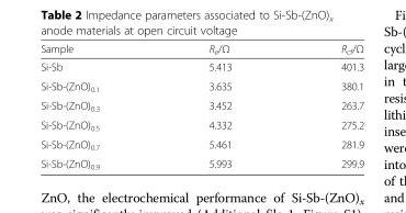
<table><thead><tr><td>Sample</td><td>R<sub>e</sub>/Ω</td><td>R<sub>cf</sub>/Ω</td></tr></thead><tbody><tr><td>Si-Sb</td><td>5.413</td><td>401.3</td></tr><tr><td>Si-Sb-(ZnO)<sub>0.1</sub></td><td>3.635</td><td>380.1</td></tr><tr><td>Si-Sb-(ZnO)<sub>0.3</sub></td><td>3.452</td><td>263.7</td></tr><tr><td>Si-Sb-(ZnO)<sub>0.5</sub></td><td>4.332</td><td>275.2</td></tr><tr><td>Si-Sb-(ZnO)<sub>0.7</sub></td><td>5.461</td><td>281.9</td></tr><tr><td>Si-Sb-(ZnO)<sub>0.9</sub></td><td>5.993</td><td>299.9</td></tr></tbody></table>